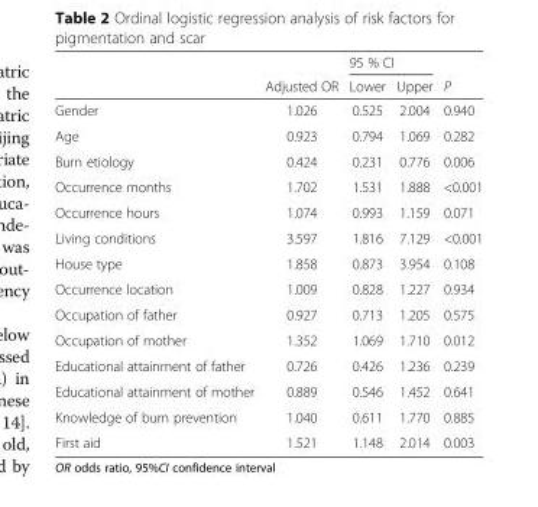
<table><thead><tr><td rowspan="2"></td><td rowspan="2">Adjusted OR</td><td colspan="2">95 % CI</td><td rowspan="2">P</td></tr><tr><td>Lower</td><td>Upper</td></tr></thead><tbody><tr><td>Gender</td><td>1.026</td><td>0.525</td><td>2.004</td><td>0.940</td></tr><tr><td>Age</td><td>0.923</td><td>0.794</td><td>1.069</td><td>0.282</td></tr><tr><td>Burn etiology</td><td>0.424</td><td>0.231</td><td>0.776</td><td>0.006</td></tr><tr><td>Occurrence months</td><td>1.702</td><td>1.531</td><td>1.888</td><td>&lt;0.001</td></tr><tr><td>Occurrence hours</td><td>1.074</td><td>0.993</td><td>1.159</td><td>0.071</td></tr><tr><td>Living conditions</td><td>3.597</td><td>1.816</td><td>7.129</td><td>&lt;0.001</td></tr><tr><td>House type</td><td>1.858</td><td>0.873</td><td>3.954</td><td>0.108</td></tr><tr><td>Occurrence location</td><td>1.009</td><td>0.828</td><td>1.227</td><td>0.934</td></tr><tr><td>Occupation of father</td><td>0.927</td><td>0.713</td><td>1.205</td><td>0.575</td></tr><tr><td>Occupation of mother</td><td>1.352</td><td>1.069</td><td>1.710</td><td>0.012</td></tr><tr><td>Educational attainment of father</td><td>0.726</td><td>0.426</td><td>1.236</td><td>0.239</td></tr><tr><td>Educational attainment of mother</td><td>0.889</td><td>0.546</td><td>1.452</td><td>0.641</td></tr><tr><td>Knowledge of burn prevention</td><td>1.040</td><td>0.611</td><td>1.770</td><td>0.885</td></tr><tr><td>First aid</td><td>1.521</td><td>1.148</td><td>2.014</td><td>0.003</td></tr></tbody></table>